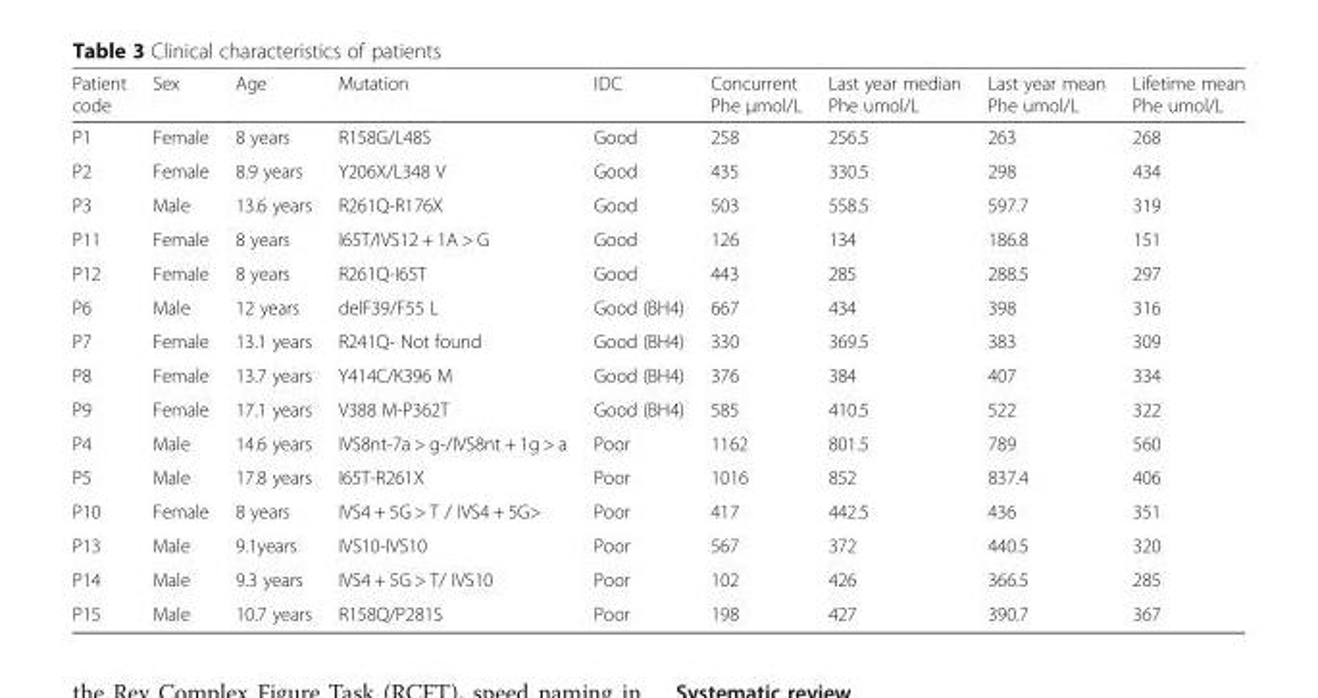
<table><thead><tr><td>Patient code</td><td>Sex</td><td>Age</td><td>Mutation</td><td>IDC</td><td>Concurrent Phe μmol/L</td><td>Last year median Phe umol/L</td><td>Last year mean Phe umol/L</td><td>Lifetime mean Phe umol/L</td></tr></thead><tbody><tr><td>P1</td><td>Female</td><td>8 years</td><td>R158G/L48S</td><td>Good</td><td>258</td><td>256.5</td><td>263</td><td>268</td></tr><tr><td>P2</td><td>Female</td><td>8.9 years</td><td>Y206X/L348 V</td><td>Good</td><td>435</td><td>330.5</td><td>298</td><td>434</td></tr><tr><td>P3</td><td>Male</td><td>13.6 years</td><td>R261Q-R176X</td><td>Good</td><td>503</td><td>558.5</td><td>597.7</td><td>319</td></tr><tr><td>P11</td><td>Female</td><td>8 years</td><td>I65T/IVS12 + 1A &gt; G</td><td>Good</td><td>126</td><td>134</td><td>186.8</td><td>151</td></tr><tr><td>P12</td><td>Female</td><td>8 years</td><td>R261Q-I65T</td><td>Good</td><td>443</td><td>285</td><td>288.5</td><td>297</td></tr><tr><td>P6</td><td>Male</td><td>12 years</td><td>delF39/F55 L</td><td>Good (BH4)</td><td>667</td><td>434</td><td>398</td><td>316</td></tr><tr><td>P7</td><td>Female</td><td>13.1 years</td><td>R241Q- Not found</td><td>Good (BH4)</td><td>330</td><td>369.5</td><td>383</td><td>309</td></tr><tr><td>P8</td><td>Female</td><td>13.7 years</td><td>Y414C/K396 M</td><td>Good (BH4)</td><td>376</td><td>384</td><td>407</td><td>334</td></tr><tr><td>P9</td><td>Female</td><td>17.1 years</td><td>V388 M-P362T</td><td>Good (BH4)</td><td>585</td><td>410.5</td><td>522</td><td>322</td></tr><tr><td>P4</td><td>Male</td><td>14.6 years</td><td>IVS8nt-7a &gt; g-/IVS8nt + 1g &gt; a</td><td>Poor</td><td>1162</td><td>801.5</td><td>789</td><td>560</td></tr><tr><td>P5</td><td>Male</td><td>17.8 years</td><td>I65T-R261X</td><td>Poor</td><td>1016</td><td>852</td><td>837.4</td><td>406</td></tr><tr><td>P10</td><td>Female</td><td>8 years</td><td>IVS4 + 5G &gt; T / IVS4 + 5G&gt;</td><td>Poor</td><td>417</td><td>442.5</td><td>436</td><td>351</td></tr><tr><td>P13</td><td>Male</td><td>9.1years</td><td>IVS10-IVS10</td><td>Poor</td><td>567</td><td>372</td><td>440.5</td><td>320</td></tr><tr><td>P14</td><td>Male</td><td>9.3 years</td><td>IVS4 + 5G &gt; T/ IVS10</td><td>Poor</td><td>102</td><td>426</td><td>366.5</td><td>285</td></tr><tr><td>P15</td><td>Male</td><td>10.7 years</td><td>R158Q/P281S</td><td>Poor</td><td>198</td><td>427</td><td>390.7</td><td>367</td></tr></tbody></table>